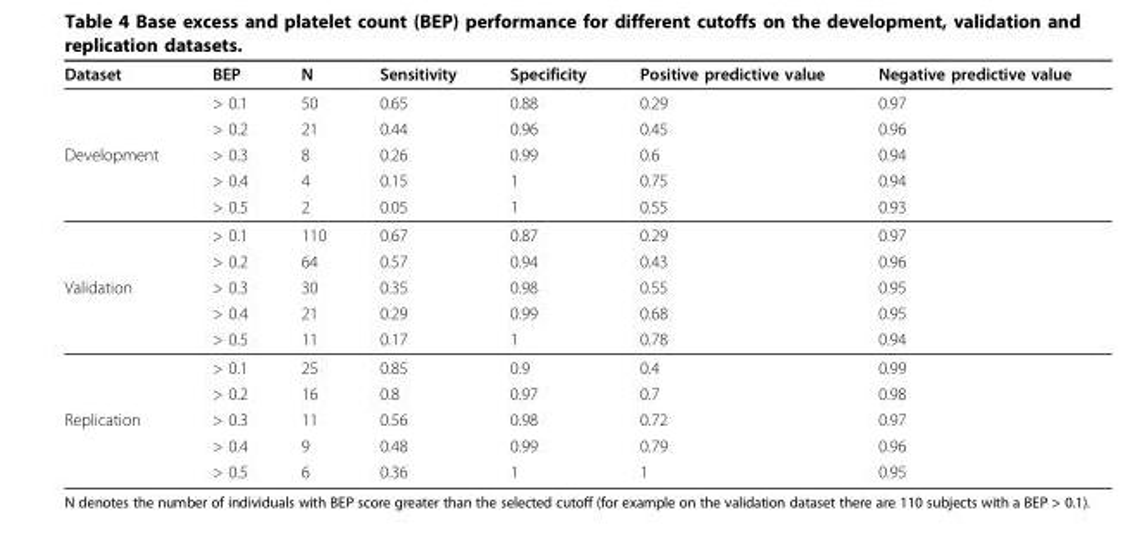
<table><thead><tr><td>Dataset</td><td>BEP</td><td>N</td><td>Sensitivity</td><td>Specificity</td><td>Positive predictive value</td><td>Negative predictive value</td></tr></thead><tbody><tr><td></td><td>&gt; 0.1</td><td>50</td><td>0.65</td><td>0.88</td><td>0.29</td><td>0.97</td></tr><tr><td></td><td>&gt; 0.2</td><td>21</td><td>0.44</td><td>0.96</td><td>0.45</td><td>0.96</td></tr><tr><td rowspan="5">Development</td><td>&gt; 0.3</td><td>8</td><td>0.26</td><td>0.99</td><td>0.6</td><td>0.94</td></tr><tr><td>&gt; 0.4</td><td>4</td><td>0.15</td><td>1</td><td>0.75</td><td>0.94</td></tr><tr><td>&gt; 0.5</td><td>2</td><td>0.05</td><td>1</td><td>0.55</td><td>0.93</td></tr><tr><td>&gt; 0.1</td><td>110</td><td>0.67</td><td>0.87</td><td>0.29</td><td>0.97</td></tr><tr><td>&gt; 0.2</td><td>64</td><td>0.57</td><td>0.94</td><td>0.43</td><td>0.96</td></tr><tr><td rowspan="5">Validation</td><td>&gt; 0.3</td><td>30</td><td>0.35</td><td>0.98</td><td>0.55</td><td>0.95</td></tr><tr><td>&gt; 0.4</td><td>21</td><td>0.29</td><td>0.99</td><td>0.68</td><td>0.95</td></tr><tr><td>&gt; 0.5</td><td>11</td><td>0.17</td><td>1</td><td>0.78</td><td>0.94</td></tr><tr><td>&gt; 0.1</td><td>25</td><td>0.85</td><td>0.9</td><td>0.4</td><td>0.99</td></tr><tr><td>&gt; 0.2</td><td>16</td><td>0.8</td><td>0.97</td><td>0.7</td><td>0.98</td></tr><tr><td rowspan="3">Replication</td><td>&gt; 0.3</td><td>11</td><td>0.56</td><td>0.98</td><td>0.72</td><td>0.97</td></tr><tr><td>&gt; 0.4</td><td>9</td><td>0.48</td><td>0.99</td><td>0.79</td><td>0.96</td></tr><tr><td>&gt; 0.5</td><td>6</td><td>0.36</td><td>1</td><td>1</td><td>0.95</td></tr></tbody></table>